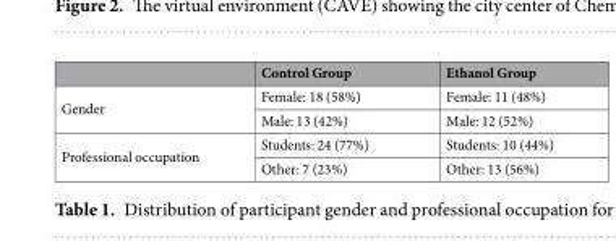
<table><thead><tr><td></td><td>Control Group</td><td>Ethanol Group</td></tr></thead><tbody><tr><td rowspan="2">Gender</td><td>Female: 18 (58%)</td><td>Female: 11 (48%)</td></tr><tr><td>Male: 13 (42%)</td><td>Male: 12 (52%)</td></tr><tr><td rowspan="2">Professional occupation</td><td>Students: 24 (77%)</td><td>Students: 10 (44%)</td></tr><tr><td>Other: 7 (23%)</td><td>Other: 13 (56%)</td></tr></tbody></table>